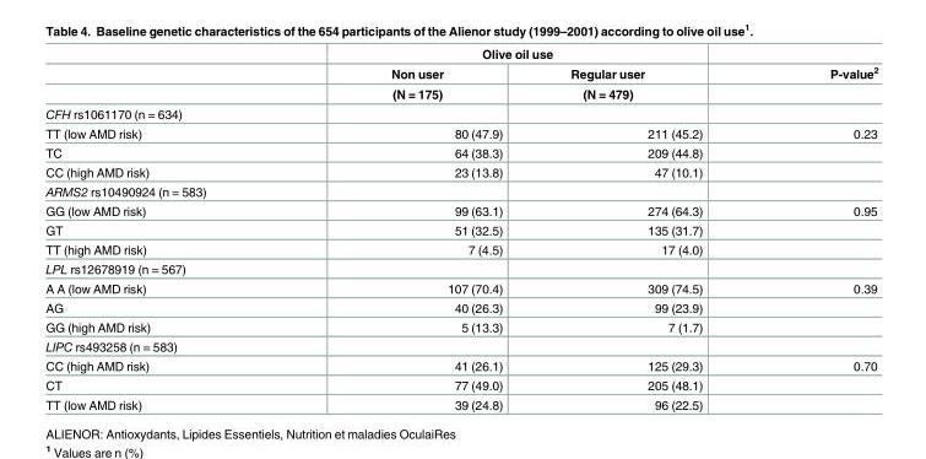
<table><thead><tr><td rowspan="3"></td><td colspan="2">Olive oil use</td><td rowspan="3">P-value<sup>2</sup></td></tr><tr><td rowspan="2">Non user (N = 175)</td><td rowspan="2">Regular user (N = 479)</td></tr><tr></tr></thead><tbody><tr><td colspan="4">CFH rs1061170 (n = 634)</td></tr><tr><td>TT (low AMD risk)</td><td>80 (47.9)</td><td>211 (45.2)</td><td>0.23</td></tr><tr><td>TC</td><td>64 (38.3)</td><td>209 (44.8)</td><td></td></tr><tr><td>CC (high AMD risk)</td><td>23 (13.8)</td><td>47 (10.1)</td><td></td></tr><tr><td colspan="4">ARMS2 rs10490924 (n = 583)</td></tr><tr><td>GG (low AMD risk)</td><td>99 (63.1)</td><td>274 (64.3)</td><td>0.95</td></tr><tr><td>GT</td><td>51 (32.5)</td><td>135 (31.7)</td><td></td></tr><tr><td>TT (high AMD risk)</td><td>7 (4.5)</td><td>17 (4.0)</td><td></td></tr><tr><td colspan="4">LPL rs12678919 (n = 567)</td></tr><tr><td>A A (low AMD risk)</td><td>107 (70.4)</td><td>309 (74.5)</td><td>0.39</td></tr><tr><td>AG</td><td>40 (26.3)</td><td>99 (23.9)</td><td></td></tr><tr><td>GG (high AMD risk)</td><td>5 (13.3)</td><td>7 (1.7)</td><td></td></tr><tr><td colspan="4">LIPC rs493258 (n = 583)</td></tr><tr><td>CC (high AMD risk)</td><td>41 (26.1)</td><td>125 (29.3)</td><td>0.70</td></tr><tr><td>CT</td><td>77 (49.0)</td><td>205 (48.1)</td><td></td></tr><tr><td>TT (low AMD risk)</td><td>39 (24.8)</td><td>96 (22.5)</td><td></td></tr></tbody></table>